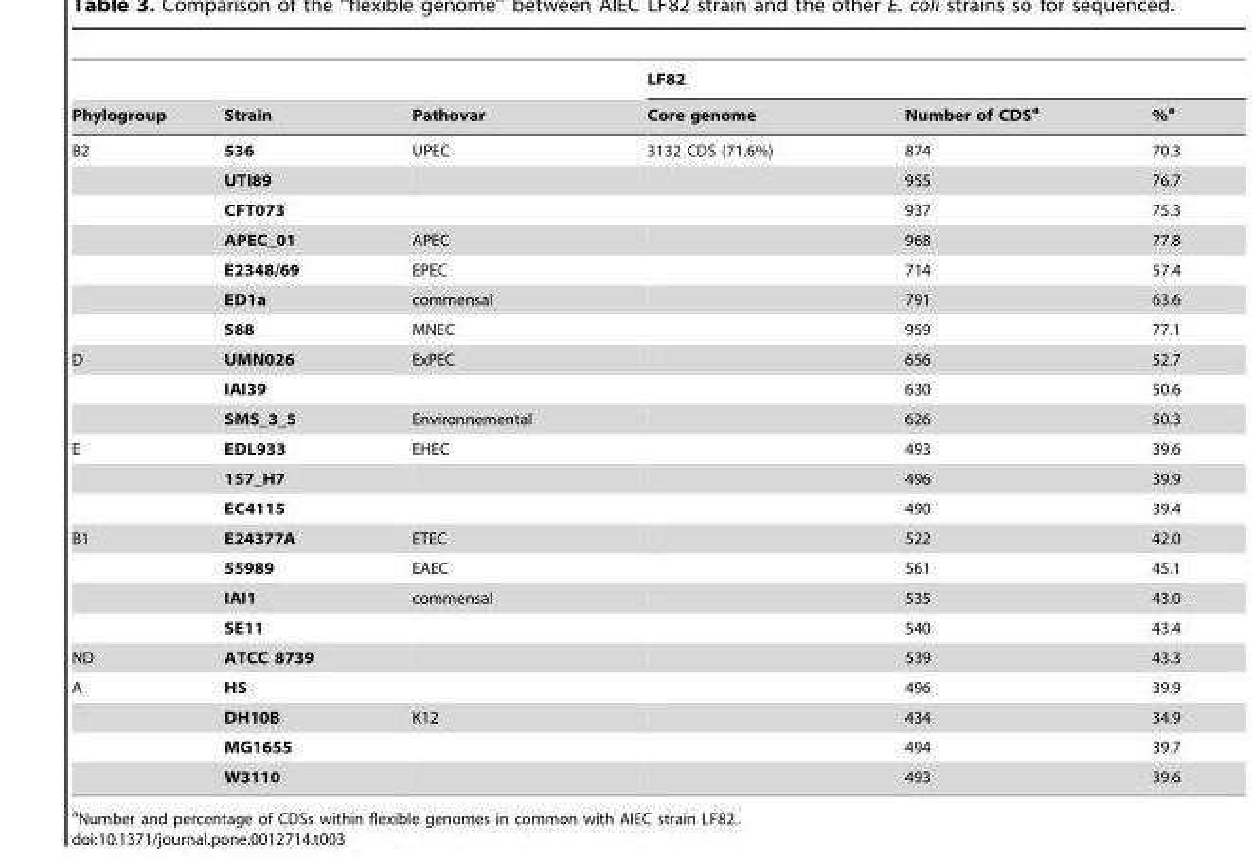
<table><thead><tr><td rowspan="2">Phylogroup</td><td rowspan="2">Strain</td><td rowspan="2">Pathovar</td><td colspan="3">LF82</td></tr><tr><td>Core genome</td><td>Number of CDS<sup>a</sup></td><td>%<sup>a</sup></td></tr></thead><tbody><tr><td rowspan="7">B2</td><td>536</td><td>UPEC</td><td>3132 CDS (71.6%)</td><td>874</td><td>70.3</td></tr><tr><td>UTI89</td><td></td><td></td><td>955</td><td>76.7</td></tr><tr><td>CFT073</td><td></td><td></td><td>937</td><td>75.3</td></tr><tr><td>APEC_01</td><td>APEC</td><td></td><td>968</td><td>77.8</td></tr><tr><td>E2348/69</td><td>EPEC</td><td></td><td>714</td><td>57.4</td></tr><tr><td>ED1a</td><td>commensal</td><td></td><td>791</td><td>63.6</td></tr><tr><td>S88</td><td>MNEC</td><td></td><td>959</td><td>77.1</td></tr><tr><td rowspan="3">D</td><td>UMN026</td><td>ExPEC</td><td></td><td>656</td><td>52.7</td></tr><tr><td>IAI39</td><td></td><td></td><td>630</td><td>50.6</td></tr><tr><td>SMS_3_5</td><td>Environnemental</td><td></td><td>626</td><td>50.3</td></tr><tr><td rowspan="3">E</td><td>EDL933</td><td>EHEC</td><td></td><td>493</td><td>39.6</td></tr><tr><td>157_H7</td><td></td><td></td><td>496</td><td>39.9</td></tr><tr><td>EC4115</td><td></td><td></td><td>490</td><td>39.4</td></tr><tr><td rowspan="4">B1</td><td>E24377A</td><td>ETEC</td><td></td><td>522</td><td>42.0</td></tr><tr><td>55989</td><td>EAEC</td><td></td><td>561</td><td>45.1</td></tr><tr><td>IAI1</td><td>commensal</td><td></td><td>535</td><td>43.0</td></tr><tr><td>SE11</td><td></td><td></td><td>540</td><td>43.4</td></tr><tr><td>ND</td><td>ATCC 8739</td><td></td><td></td><td>539</td><td>43.3</td></tr><tr><td rowspan="4">A</td><td>HS</td><td></td><td></td><td>496</td><td>39.9</td></tr><tr><td>DH10B</td><td>K12</td><td></td><td>434</td><td>34.9</td></tr><tr><td>MG1655</td><td></td><td></td><td>494</td><td>39.7</td></tr><tr><td>W3110</td><td></td><td></td><td>493</td><td>39.6</td></tr></tbody></table>